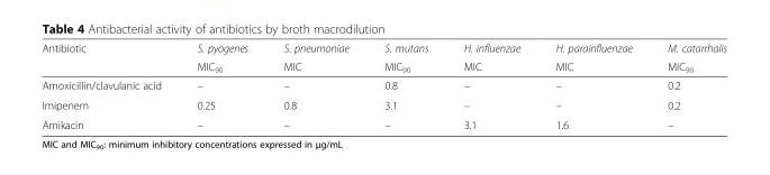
<table><thead><tr><td rowspan="2">Antibiotic</td><td rowspan="2">S. pyogenes MIC<sub>90</sub></td><td rowspan="2">S. pneumoniae MIC</td><td rowspan="2">S. mutans MIC<sub>90</sub></td><td rowspan="2">H. influenzae MIC</td><td rowspan="2">H. parainfluenzae MIC</td><td rowspan="2">M. catarrhalis MIC<sub>90</sub></td></tr><tr></tr></thead><tbody><tr><td>Amoxicillin/clavulanic acid</td><td>–</td><td>–</td><td>0.8</td><td>–</td><td>–</td><td>0.2</td></tr><tr><td>Imipenem</td><td>0.25</td><td>0.8</td><td>3.1</td><td>–</td><td>–</td><td>0.2</td></tr><tr><td>Amikacin</td><td>–</td><td>–</td><td>–</td><td>3.1</td><td>1.6</td><td>–</td></tr></tbody></table>